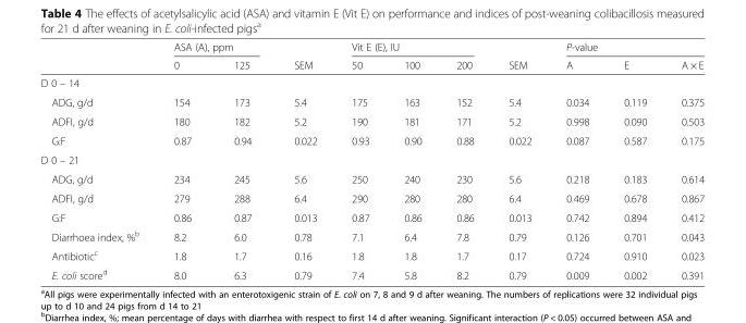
<table><thead><tr><td rowspan="2"></td><td colspan="2">ASA (A), ppm</td><td rowspan="2">SEM</td><td colspan="3">Vit E (E), IU</td><td rowspan="2">SEM</td><td colspan="3">P-value</td></tr><tr><td>0</td><td>125</td><td>50</td><td>100</td><td>200</td><td>A</td><td>E</td><td>A × E</td></tr></thead><tbody><tr><td colspan="11">D 0 – 14</td></tr><tr><td>ADG, g/d</td><td>154</td><td>173</td><td>5.4</td><td>175</td><td>163</td><td>152</td><td>5.4</td><td>0.034</td><td>0.119</td><td>0.375</td></tr><tr><td>ADFI, g/d</td><td>180</td><td>182</td><td>5.2</td><td>190</td><td>181</td><td>171</td><td>5.2</td><td>0.998</td><td>0.090</td><td>0.503</td></tr><tr><td>G:F</td><td>0.87</td><td>0.94</td><td>0.022</td><td>0.93</td><td>0.90</td><td>0.88</td><td>0.022</td><td>0.087</td><td>0.587</td><td>0.175</td></tr><tr><td colspan="11">D 0 – 21</td></tr><tr><td>ADG, g/d</td><td>234</td><td>245</td><td>5.6</td><td>250</td><td>240</td><td>230</td><td>5.6</td><td>0.218</td><td>0.183</td><td>0.614</td></tr><tr><td>ADFI, g/d</td><td>279</td><td>288</td><td>6.4</td><td>290</td><td>280</td><td>280</td><td>6.4</td><td>0.469</td><td>0.678</td><td>0.867</td></tr><tr><td>G:F</td><td>0.86</td><td>0.87</td><td>0.013</td><td>0.87</td><td>0.86</td><td>0.86</td><td>0.013</td><td>0.742</td><td>0.894</td><td>0.412</td></tr><tr><td>Diarrhoea index, %<sup>b</sup></td><td>8.2</td><td>6.0</td><td>0.78</td><td>7.1</td><td>6.4</td><td>7.8</td><td>0.79</td><td>0.126</td><td>0.701</td><td>0.043</td></tr><tr><td>Antibiotic<sup>c</sup></td><td>1.8</td><td>1.7</td><td>0.16</td><td>1.8</td><td>1.8</td><td>1.7</td><td>0.17</td><td>0.724</td><td>0.910</td><td>0.023</td></tr><tr><td>E. coli score<sup>d</sup></td><td>8.0</td><td>6.3</td><td>0.79</td><td>7.4</td><td>5.8</td><td>8.2</td><td>0.79</td><td>0.009</td><td>0.002</td><td>0.391</td></tr></tbody></table>